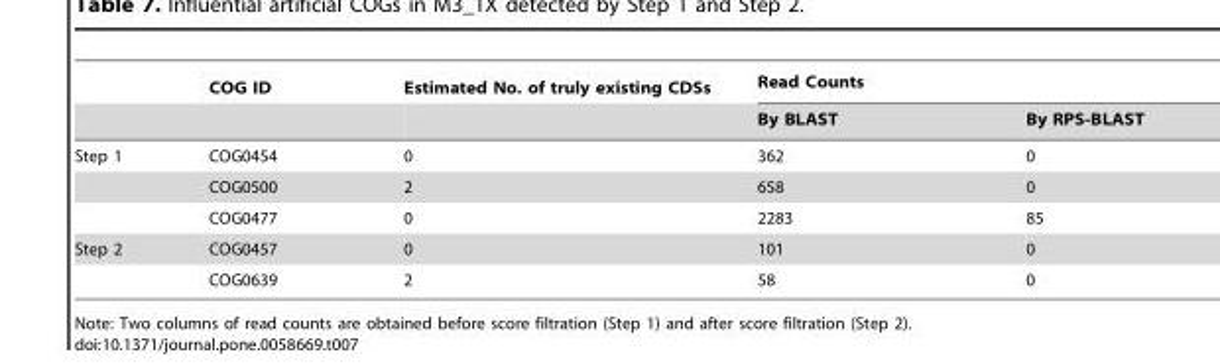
<table><thead><tr><td rowspan="2"></td><td rowspan="2">COG ID</td><td rowspan="2">Estimated No. of truly existing CDSs</td><td colspan="2">Read Counts</td></tr><tr><td>By BLAST</td><td>By RPS-BLAST</td></tr></thead><tbody><tr><td rowspan="3">Step 1</td><td>COG0454</td><td>0</td><td>362</td><td>0</td></tr><tr><td>COG0500</td><td>2</td><td>658</td><td>0</td></tr><tr><td>COG0477</td><td>0</td><td>2283</td><td>85</td></tr><tr><td rowspan="2">Step 2</td><td>COG0457</td><td>0</td><td>101</td><td>0</td></tr><tr><td>COG0639</td><td>2</td><td>58</td><td>0</td></tr></tbody></table>